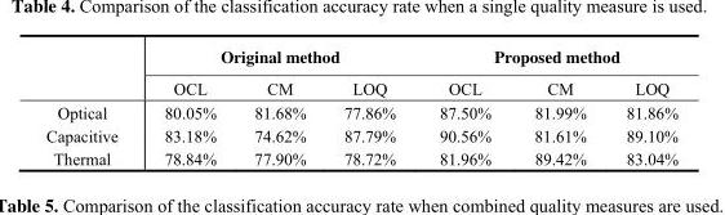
<table><thead><tr><td rowspan="2"></td><td colspan="3">Original method</td><td colspan="3">Proposed method</td></tr><tr><td>OCL</td><td>CM</td><td>LOQ</td><td>OCL</td><td>CM</td><td>LOQ</td></tr></thead><tbody><tr><td>Optical</td><td>80.05%</td><td>81.68%</td><td>77.86%</td><td>87.50%</td><td>81.99%</td><td>81.86%</td></tr><tr><td>Capacitive</td><td>83.18%</td><td>74.62%</td><td>87.79%</td><td>90.56%</td><td>81.61%</td><td>89.10%</td></tr><tr><td>Thermal</td><td>78.84%</td><td>77.90%</td><td>78.72%</td><td>81.96%</td><td>89.42%</td><td>83.04%</td></tr></tbody></table>